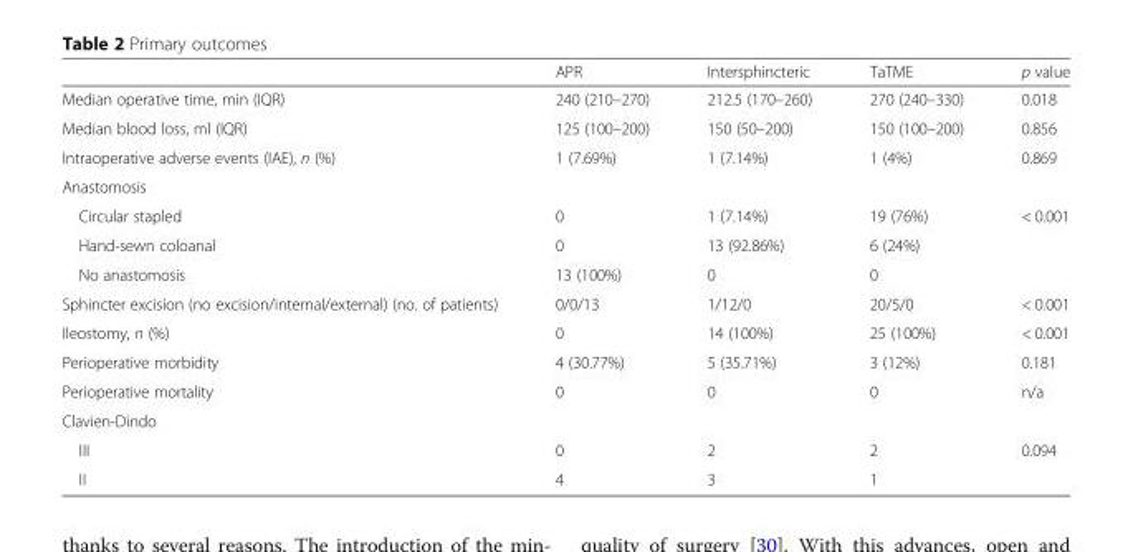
<table><thead><tr><td></td><td>APR</td><td>Intersphincteric</td><td>TaTME</td><td>p value</td></tr></thead><tbody><tr><td>Median operative time, min (IQR)</td><td>240 (210–270)</td><td>212.5 (170–260)</td><td>270 (240–330)</td><td>0.018</td></tr><tr><td>Median blood loss, ml (IQR)</td><td>125 (100–200)</td><td>150 (50–200)</td><td>150 (100–200)</td><td>0.856</td></tr><tr><td>Intraoperative adverse events (IAE), n (%)</td><td>1 (7.69%)</td><td>1 (7.14%)</td><td>1 (4%)</td><td>0.869</td></tr><tr><td colspan="5">Anastomosis</td></tr><tr><td>Circular stapled</td><td>0</td><td>1 (7.14%)</td><td>19 (76%)</td><td rowspan="3">&lt; 0.001</td></tr><tr><td>Hand-sewn coloanal</td><td>0</td><td>13 (92.86%)</td><td>6 (24%)</td></tr><tr><td>No anastomosis</td><td>13 (100%)</td><td>0</td><td>0</td></tr><tr><td>Sphincter excision (no excision/internal/external) (no. of patients)</td><td>0/0/13</td><td>1/12/0</td><td>20/5/0</td><td>&lt; 0.001</td></tr><tr><td>Ileostomy, n (%)</td><td>0</td><td>14 (100%)</td><td>25 (100%)</td><td>&lt; 0.001</td></tr><tr><td>Perioperative morbidity</td><td>4 (30.77%)</td><td>5 (35.71%)</td><td>3 (12%)</td><td>0.181</td></tr><tr><td>Perioperative mortality</td><td>0</td><td>0</td><td>0</td><td>n/a</td></tr><tr><td colspan="5">Clavien-Dindo</td></tr><tr><td>III</td><td>0</td><td>2</td><td>2</td><td rowspan="2">0.094</td></tr><tr><td>II</td><td>4</td><td>3</td><td>1</td></tr></tbody></table>